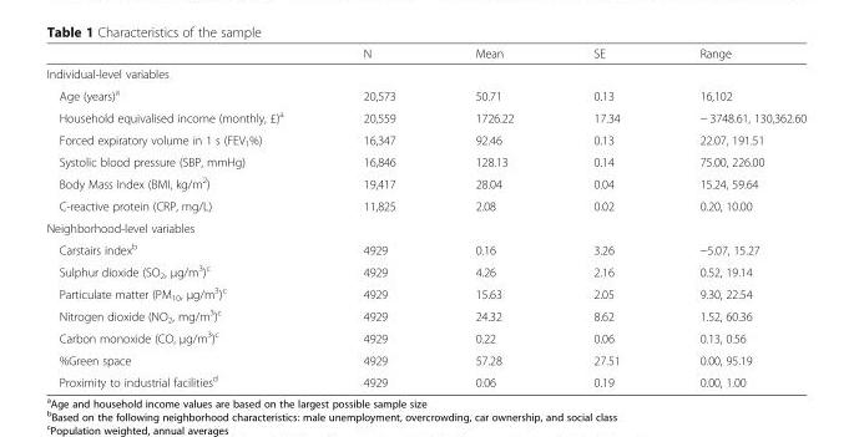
<table><thead><tr><td></td><td>N</td><td>Mean</td><td>SE</td><td>Range</td></tr></thead><tbody><tr><td colspan="5">Individual-level variables</td></tr><tr><td>Age (years)<sup>a</sup></td><td>20,573</td><td>50.71</td><td>0.13</td><td>16,102</td></tr><tr><td>Household equivalised income (monthly, £)<sup>a</sup></td><td>20,559</td><td>1726.22</td><td>17.34</td><td>− 3748.61, 130,362.60</td></tr><tr><td>Forced expiratory volume in 1 s (FEV<sub>1</sub>%)</td><td>16,347</td><td>92.46</td><td>0.13</td><td>22.07, 191.51</td></tr><tr><td>Systolic blood pressure (SBP, mmHg)</td><td>16,846</td><td>128.13</td><td>0.14</td><td>75.00, 226.00</td></tr><tr><td>Body Mass Index (BMI, kg/m<sup>2</sup>)</td><td>19,417</td><td>28.04</td><td>0.04</td><td>15.24, 59.64</td></tr><tr><td>C-reactive protein (CRP, mg/L)</td><td>11,825</td><td>2.08</td><td>0.02</td><td>0.20, 10.00</td></tr><tr><td colspan="5">Neighborhood-level variables</td></tr><tr><td>Carstairs index<sup>b</sup></td><td>4929</td><td>0.16</td><td>3.26</td><td>−5.07, 15.27</td></tr><tr><td>Sulphur dioxide (SO<sub>2</sub>, μg/m<sup>3</sup>)<sup>c</sup></td><td>4929</td><td>4.26</td><td>2.16</td><td>0.52, 19.14</td></tr><tr><td>Particulate matter (PM<sub>10</sub>, μg/m<sup>3</sup>)<sup>c</sup></td><td>4929</td><td>15.63</td><td>2.05</td><td>9.30, 22.54</td></tr><tr><td>Nitrogen dioxide (NO<sub>2</sub>, mg/m<sup>3</sup>)<sup>c</sup></td><td>4929</td><td>24.32</td><td>8.62</td><td>1.52, 60.36</td></tr><tr><td>Carbon monoxide (CO, μg/m<sup>3</sup>)<sup>c</sup></td><td>4929</td><td>0.22</td><td>0.06</td><td>0.13, 0.56</td></tr><tr><td>%Green space</td><td>4929</td><td>57.28</td><td>27.51</td><td>0.00, 95.19</td></tr><tr><td>Proximity to industrial facilities<sup>d</sup></td><td>4929</td><td>0.06</td><td>0.19</td><td>0.00, 1.00</td></tr></tbody></table>